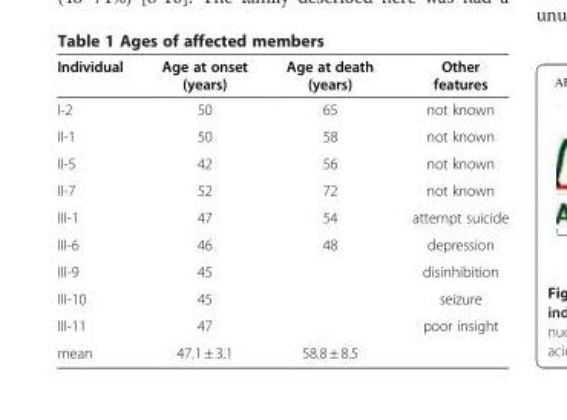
<table><thead><tr><td>Individual</td><td>Age at onset (years)</td><td>Age at death (years)</td><td>Other features</td></tr></thead><tbody><tr><td>I-2</td><td>50</td><td>65</td><td>not known</td></tr><tr><td>II-1</td><td>50</td><td>58</td><td>not known</td></tr><tr><td>II-5</td><td>42</td><td>56</td><td>not known</td></tr><tr><td>II-7</td><td>52</td><td>72</td><td>not known</td></tr><tr><td>III-1</td><td>47</td><td>54</td><td>attempt suicide</td></tr><tr><td>III-6</td><td>46</td><td>48</td><td>depression</td></tr><tr><td>III-9</td><td>45</td><td></td><td>disinhibition</td></tr><tr><td>III-10</td><td>45</td><td></td><td>seizure</td></tr><tr><td>III-11</td><td>47</td><td></td><td>poor insight</td></tr><tr><td>mean</td><td>47.1 ± 3.1</td><td>58.8 ± 8.5</td><td></td></tr></tbody></table>